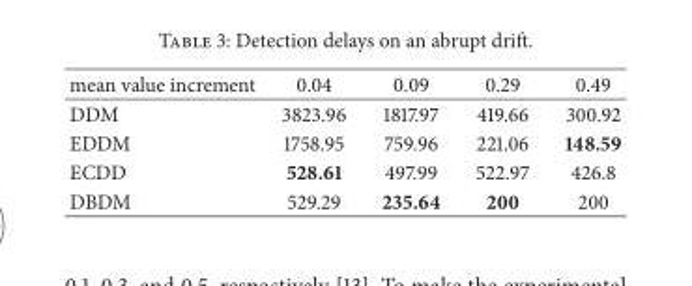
<table><thead><tr><td>mean value increment</td><td>0.04</td><td>0.09</td><td>0.29</td><td>0.49</td></tr></thead><tbody><tr><td>DDM</td><td>3823.96</td><td>1817.97</td><td>419.66</td><td>300.92</td></tr><tr><td>EDDM</td><td>1758.95</td><td>759.96</td><td>221.06</td><td>148.59</td></tr><tr><td>ECDD</td><td>528.61</td><td>497.99</td><td>522.97</td><td>426.8</td></tr><tr><td>DBDM</td><td>529.29</td><td>235.64</td><td>200</td><td>200</td></tr></tbody></table>